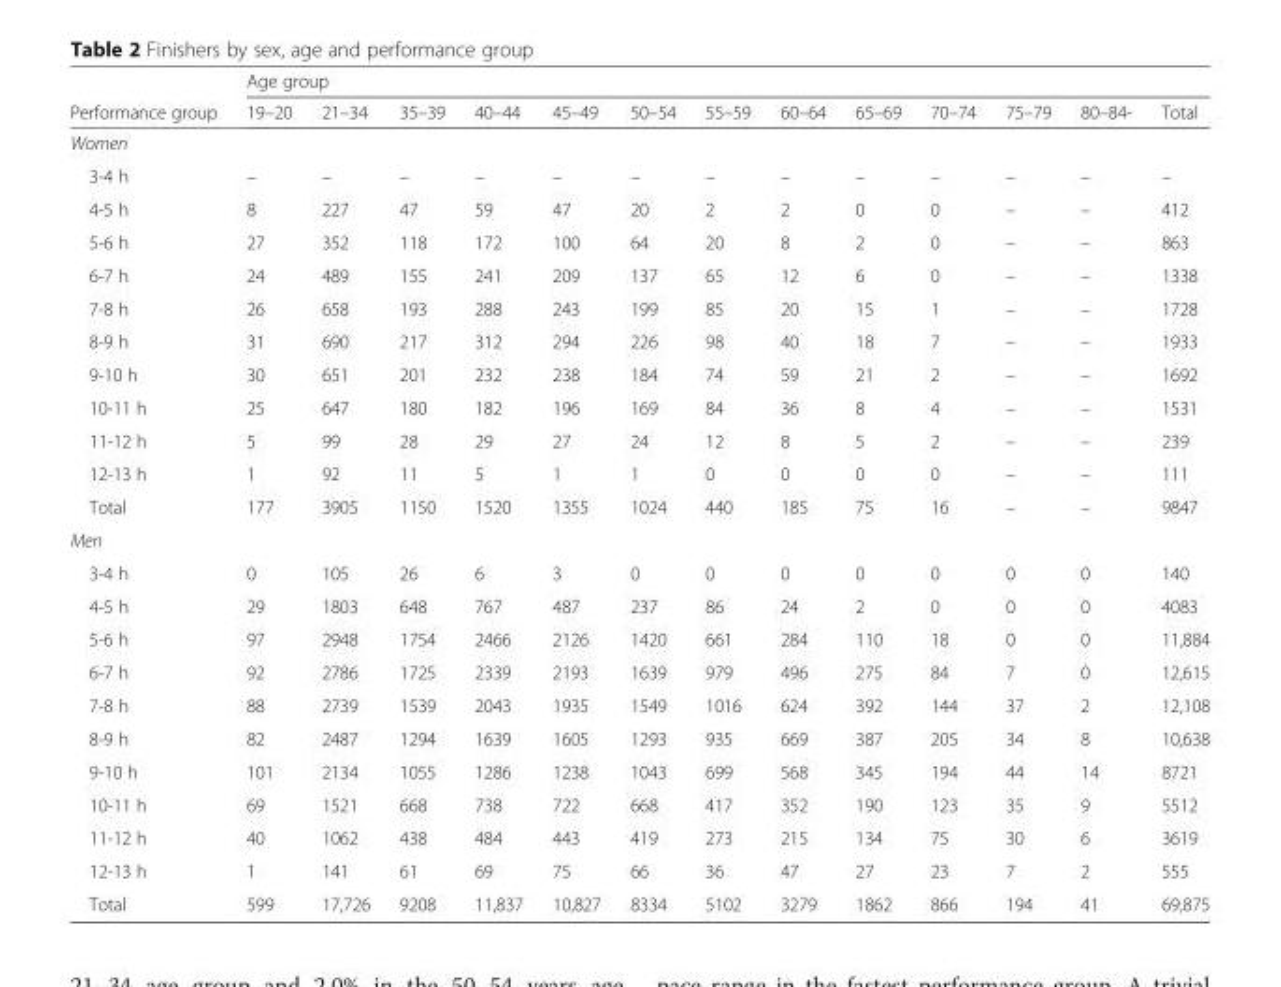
<table><thead><tr><td rowspan="2">Performance group</td><td colspan="13">Age group</td></tr><tr><td>19–20</td><td>21–34</td><td>35–39</td><td>40–44</td><td>45–49</td><td>50–54</td><td>55–59</td><td>60–64</td><td>65–69</td><td>70–74</td><td>75–79</td><td>80–84-</td><td>Total</td></tr></thead><tbody><tr><td colspan="14">Women</td></tr><tr><td>3-4 h</td><td>–</td><td>–</td><td>–</td><td>–</td><td>–</td><td>–</td><td>–</td><td>–</td><td>–</td><td>–</td><td>–</td><td>–</td><td>–</td></tr><tr><td>4-5 h</td><td>8</td><td>227</td><td>47</td><td>59</td><td>47</td><td>20</td><td>2</td><td>2</td><td>0</td><td>0</td><td>–</td><td>–</td><td>412</td></tr><tr><td>5-6 h</td><td>27</td><td>352</td><td>118</td><td>172</td><td>100</td><td>64</td><td>20</td><td>8</td><td>2</td><td>0</td><td>–</td><td>–</td><td>863</td></tr><tr><td>6-7 h</td><td>24</td><td>489</td><td>155</td><td>241</td><td>209</td><td>137</td><td>65</td><td>12</td><td>6</td><td>0</td><td>–</td><td>–</td><td>1338</td></tr><tr><td>7-8 h</td><td>26</td><td>658</td><td>193</td><td>288</td><td>243</td><td>199</td><td>85</td><td>20</td><td>15</td><td>1</td><td>–</td><td>–</td><td>1728</td></tr><tr><td>8-9 h</td><td>31</td><td>690</td><td>217</td><td>312</td><td>294</td><td>226</td><td>98</td><td>40</td><td>18</td><td>7</td><td>–</td><td>–</td><td>1933</td></tr><tr><td>9-10 h</td><td>30</td><td>651</td><td>201</td><td>232</td><td>238</td><td>184</td><td>74</td><td>59</td><td>21</td><td>2</td><td>–</td><td>–</td><td>1692</td></tr><tr><td>10-11 h</td><td>25</td><td>647</td><td>180</td><td>182</td><td>196</td><td>169</td><td>84</td><td>36</td><td>8</td><td>4</td><td>–</td><td>–</td><td>1531</td></tr><tr><td>11-12 h</td><td>5</td><td>99</td><td>28</td><td>29</td><td>27</td><td>24</td><td>12</td><td>8</td><td>5</td><td>2</td><td>–</td><td>–</td><td>239</td></tr><tr><td>12-13 h</td><td>1</td><td>92</td><td>11</td><td>5</td><td>1</td><td>1</td><td>0</td><td>0</td><td>0</td><td>0</td><td>–</td><td>–</td><td>111</td></tr><tr><td>Total</td><td>177</td><td>3905</td><td>1150</td><td>1520</td><td>1355</td><td>1024</td><td>440</td><td>185</td><td>75</td><td>16</td><td>–</td><td>–</td><td>9847</td></tr><tr><td colspan="14">Men</td></tr><tr><td>3-4 h</td><td>0</td><td>105</td><td>26</td><td>6</td><td>3</td><td>0</td><td>0</td><td>0</td><td>0</td><td>0</td><td>0</td><td>0</td><td>140</td></tr><tr><td>4-5 h</td><td>29</td><td>1803</td><td>648</td><td>767</td><td>487</td><td>237</td><td>86</td><td>24</td><td>2</td><td>0</td><td>0</td><td>0</td><td>4083</td></tr><tr><td>5-6 h</td><td>97</td><td>2948</td><td>1754</td><td>2466</td><td>2126</td><td>1420</td><td>661</td><td>284</td><td>110</td><td>18</td><td>0</td><td>0</td><td>11,884</td></tr><tr><td>6-7 h</td><td>92</td><td>2786</td><td>1725</td><td>2339</td><td>2193</td><td>1639</td><td>979</td><td>496</td><td>275</td><td>84</td><td>7</td><td>0</td><td>12,615</td></tr><tr><td>7-8 h</td><td>88</td><td>2739</td><td>1539</td><td>2043</td><td>1935</td><td>1549</td><td>1016</td><td>624</td><td>392</td><td>144</td><td>37</td><td>2</td><td>12,108</td></tr><tr><td>8-9 h</td><td>82</td><td>2487</td><td>1294</td><td>1639</td><td>1605</td><td>1293</td><td>935</td><td>669</td><td>387</td><td>205</td><td>34</td><td>8</td><td>10,638</td></tr><tr><td>9-10 h</td><td>101</td><td>2134</td><td>1055</td><td>1286</td><td>1238</td><td>1043</td><td>699</td><td>568</td><td>345</td><td>194</td><td>44</td><td>14</td><td>8721</td></tr><tr><td>10-11 h</td><td>69</td><td>1521</td><td>668</td><td>738</td><td>722</td><td>668</td><td>417</td><td>352</td><td>190</td><td>123</td><td>35</td><td>9</td><td>5512</td></tr><tr><td>11-12 h</td><td>40</td><td>1062</td><td>438</td><td>484</td><td>443</td><td>419</td><td>273</td><td>215</td><td>134</td><td>75</td><td>30</td><td>6</td><td>3619</td></tr><tr><td>12-13 h</td><td>1</td><td>141</td><td>61</td><td>69</td><td>75</td><td>66</td><td>36</td><td>47</td><td>27</td><td>23</td><td>7</td><td>2</td><td>555</td></tr><tr><td>Total</td><td>599</td><td>17,726</td><td>9208</td><td>11,837</td><td>10,827</td><td>8334</td><td>5102</td><td>3279</td><td>1862</td><td>866</td><td>194</td><td>41</td><td>69,875</td></tr></tbody></table>